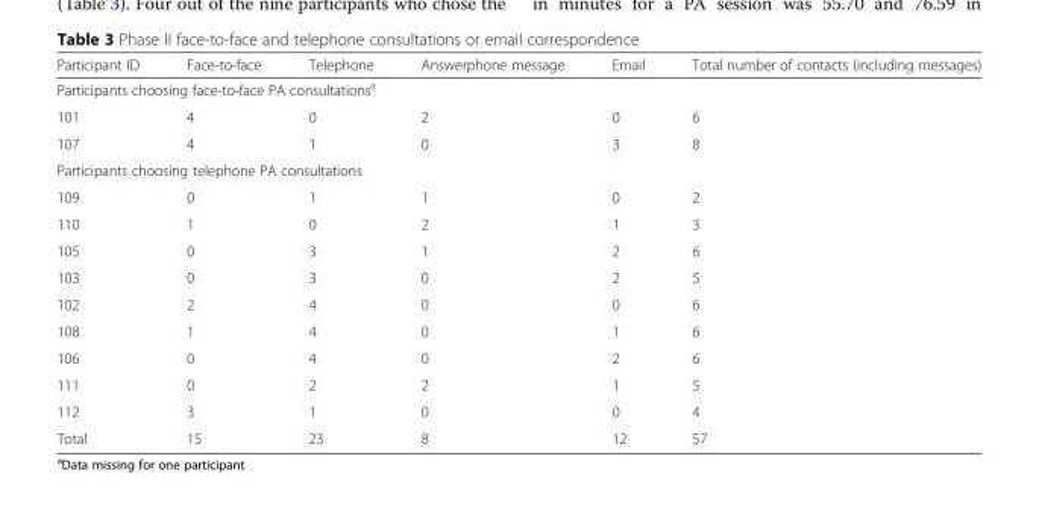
<table><thead><tr><td>Participant ID</td><td>Face-to-face</td><td>Telephone</td><td>Answerphone message</td><td>Email</td><td>Total number of contacts (including messages)</td></tr></thead><tbody><tr><td colspan="6">Participants choosing face-to-face PA consultations<sup>a</sup></td></tr><tr><td>101</td><td>4</td><td>0</td><td>2</td><td>0</td><td>6</td></tr><tr><td>107</td><td>4</td><td>1</td><td>0</td><td>3</td><td>8</td></tr><tr><td colspan="6">Participants choosing telephone PA consultations</td></tr><tr><td>109</td><td>0</td><td>1</td><td>1</td><td>0</td><td>2</td></tr><tr><td>110</td><td>1</td><td>0</td><td>2</td><td>1</td><td>3</td></tr><tr><td>105</td><td>0</td><td>3</td><td>1</td><td>2</td><td>6</td></tr><tr><td>103</td><td>0</td><td>3</td><td>0</td><td>2</td><td>5</td></tr><tr><td>102</td><td>2</td><td>4</td><td>0</td><td>0</td><td>6</td></tr><tr><td>108</td><td>1</td><td>4</td><td>0</td><td>1</td><td>6</td></tr><tr><td>106</td><td>0</td><td>4</td><td>0</td><td>2</td><td>6</td></tr><tr><td>111</td><td>0</td><td>2</td><td>2</td><td>1</td><td>5</td></tr><tr><td>112</td><td>3</td><td>1</td><td>0</td><td>0</td><td>4</td></tr><tr><td>Total</td><td>15</td><td>23</td><td>8</td><td>12</td><td>57</td></tr></tbody></table>